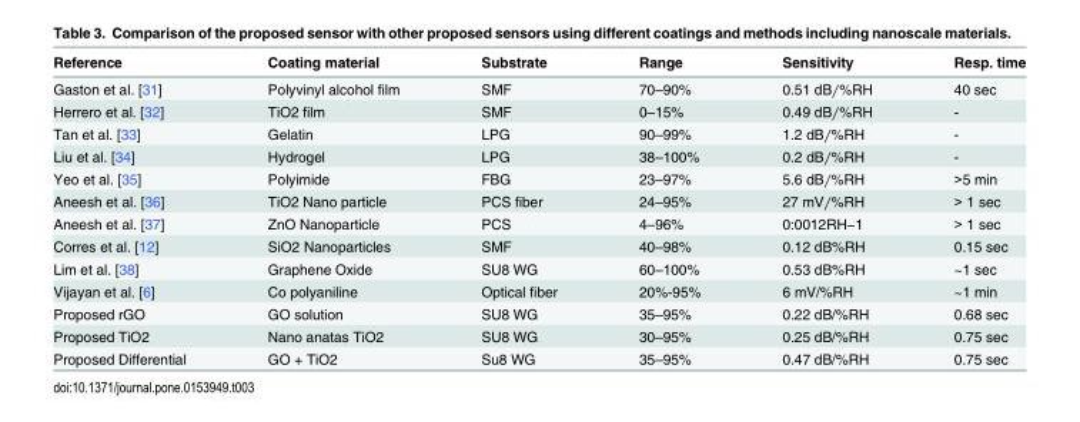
<table><thead><tr><td>Reference</td><td>Coating material</td><td>Substrate</td><td>Range</td><td>Sensitivity</td><td>Resp. time</td></tr></thead><tbody><tr><td>Gaston et al. [31]</td><td>Polyvinyl alcohol film</td><td>SMF</td><td>70–90%</td><td>0.51 dB∕%RH</td><td>40 sec</td></tr><tr><td>Herrero et al. [32]</td><td>TiO2 film</td><td>SMF</td><td>0–15%</td><td>0.49 dB∕%RH</td><td>-</td></tr><tr><td>Tan et al. [33]</td><td>Gelatin</td><td>LPG</td><td>90–99%</td><td>1.2 dB∕%RH</td><td>-</td></tr><tr><td>Liu et al. [34]</td><td>Hydrogel</td><td>LPG</td><td>38–100%</td><td>0.2 dB∕%RH</td><td>-</td></tr><tr><td>Yeo et al. [35]</td><td>Polyimide</td><td>FBG</td><td>23–97%</td><td>5.6 dB∕%RH</td><td>&gt;5 min</td></tr><tr><td>Aneesh et al. [36]</td><td>TiO2 Nano particle</td><td>PCS fiber</td><td>24–95%</td><td>27 mV∕%RH</td><td>&gt; 1 sec</td></tr><tr><td>Aneesh et al. [37]</td><td>ZnO Nanoparticle</td><td>PCS</td><td>4–96%</td><td>0:0012RH−1</td><td>&gt; 1 sec</td></tr><tr><td>Corres et al. [12]</td><td>SiO2 Nanoparticles</td><td>SMF</td><td>40–98%</td><td>0.12 dB%RH</td><td>0.15 sec</td></tr><tr><td>Lim et al. [38]</td><td>Graphene Oxide</td><td>SU8 WG</td><td>60–100%</td><td>0.53 dB%RH</td><td>~1 sec</td></tr><tr><td>Vijayan et al. [6]</td><td>Co polyaniline</td><td>Optical fiber</td><td>20%-95%</td><td>6 mV/%RH</td><td>~1 min</td></tr><tr><td>Proposed rGO</td><td>GO solution</td><td>SU8 WG</td><td>35–95%</td><td>0.22 dB/%RH</td><td>0.68 sec</td></tr><tr><td>Proposed TiO2</td><td>Nano anatas TiO2</td><td>SU8 WG</td><td>30–95%</td><td>0.25 dB/%RH</td><td>0.75 sec</td></tr><tr><td>Proposed Differential</td><td>GO + TiO2</td><td>Su8 WG</td><td>35–95%</td><td>0.47 dB/%RH</td><td>0.75 sec</td></tr></tbody></table>